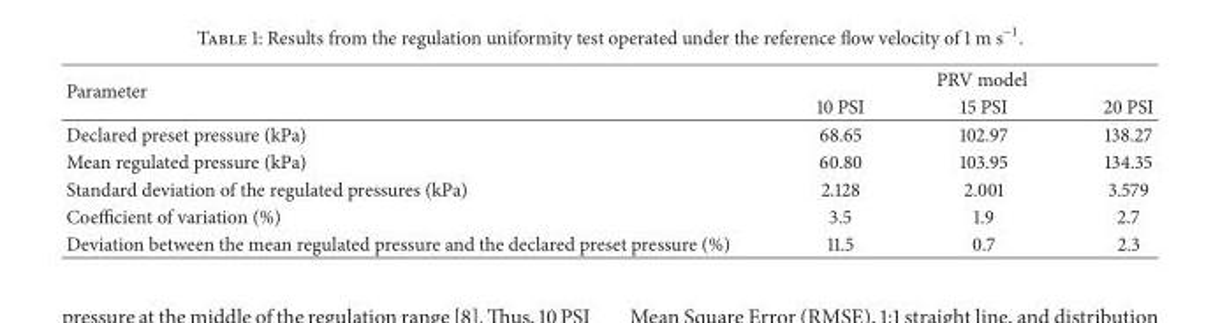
<table><thead><tr><td rowspan="2">Parameter</td><td colspan="3">PRV model</td></tr><tr><td>10 PSI</td><td>15 PSI</td><td>20 PSI</td></tr></thead><tbody><tr><td>Declared preset pressure (kPa)</td><td>68.65</td><td>102.97</td><td>138.27</td></tr><tr><td>Mean regulated pressure (kPa)</td><td>60.80</td><td>103.95</td><td>134.35</td></tr><tr><td>Standard deviation of the regulated pressures (kPa)</td><td>2.128</td><td>2.001</td><td>3.579</td></tr><tr><td>Coefficient of variation (%)</td><td>3.5</td><td>1.9</td><td>2.7</td></tr><tr><td>Deviation between the mean regulated pressure and the declared preset pressure (%)</td><td>11.5</td><td>0.7</td><td>2.3</td></tr></tbody></table>